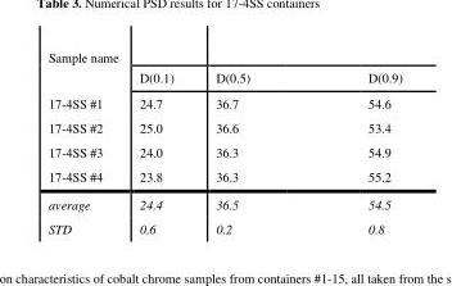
<table><thead><tr><td rowspan="2">Sample name</td><td rowspan="2">D(0.1)</td><td rowspan="2">D(0.5)</td><td rowspan="2">D(0.9)</td></tr><tr></tr></thead><tbody><tr><td>17-4SS #1</td><td>24.7</td><td>36.7</td><td>54.6</td></tr><tr><td>17-4SS #2</td><td>25.0</td><td>36.6</td><td>53.4</td></tr><tr><td>17-4SS #3</td><td>24.0</td><td>36.3</td><td>54.9</td></tr><tr><td>17-4SS #4</td><td>23.8</td><td>36.3</td><td>55.2</td></tr><tr><td>average</td><td>24.4</td><td>36.5</td><td>54.5</td></tr><tr><td>STD</td><td>0.6</td><td>0.2</td><td>0.8</td></tr></tbody></table>